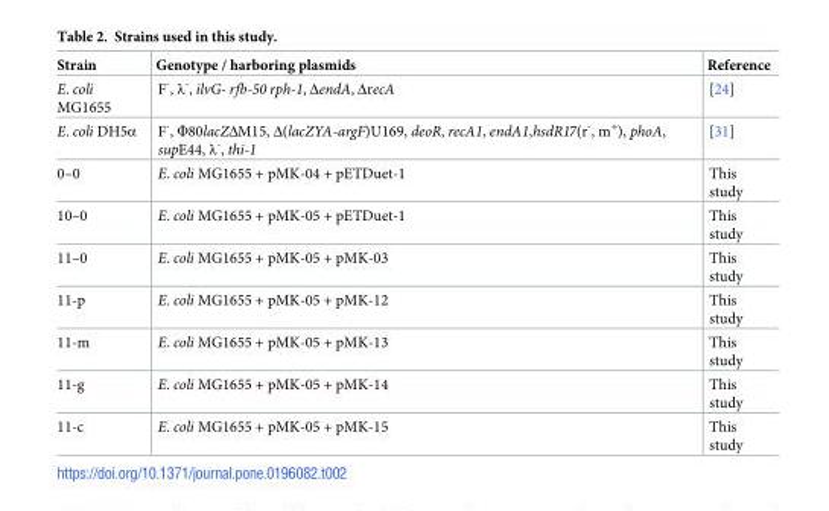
<table><thead><tr><td>Strain</td><td>Genotype / harboring plasmids</td><td>Reference</td></tr></thead><tbody><tr><td>E. coli MG1655</td><td>F<sup>-</sup>, λ<sup>-</sup>, ilvG- rfb-50 rph-1, ΔendA, ΔrecA</td><td>[24]</td></tr><tr><td>E. coli DH5α</td><td>F<sup>-</sup>, Φ80lacZΔM15, Δ(lacZYA-argF)U169, deoR, recA1, endA1,hsdR17(r<sup>-</sup>, m<sup>+</sup>), phoA, supE44, λ<sup>-</sup>, thi-1</td><td>[31]</td></tr><tr><td>0–0</td><td>E. coli MG1655 + pMK-04 + pETDuet-1</td><td>This study</td></tr><tr><td>10–0</td><td>E. coli MG1655 + pMK-05 + pETDuet-1</td><td>This study</td></tr><tr><td>11–0</td><td>E. coli MG1655 + pMK-05 + pMK-03</td><td>This study</td></tr><tr><td>11-p</td><td>E. coli MG1655 + pMK-05 + pMK-12</td><td>This study</td></tr><tr><td>11-m</td><td>E. coli MG1655 + pMK-05 + pMK-13</td><td>This study</td></tr><tr><td>11-g</td><td>E. coli MG1655 + pMK-05 + pMK-14</td><td>This study</td></tr><tr><td>11-c</td><td>E. coli MG1655 + pMK-05 + pMK-15</td><td>This study</td></tr></tbody></table>